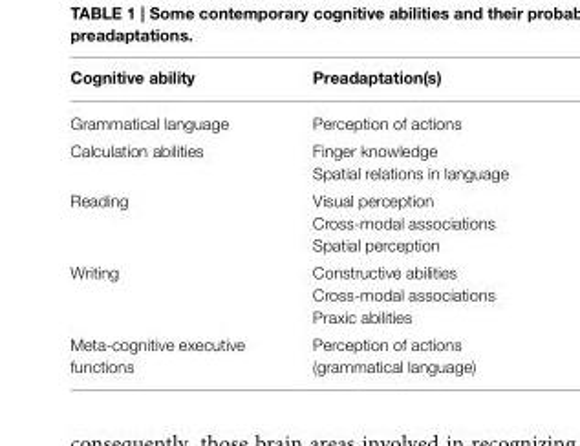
<table><thead><tr><td>Cognitive ability</td><td>Preadaptation(s)</td></tr></thead><tbody><tr><td>Grammatical language</td><td>Perception of actions</td></tr><tr><td>Calculation abilities</td><td>Finger knowledge Spatial relations in language</td></tr><tr><td>Reading</td><td>Visual perception Cross-modal associations Spatial perception</td></tr><tr><td>Writing</td><td>Constructive abilities Cross-modal associations Praxic abilities</td></tr><tr><td>Meta-cognitive executive functions</td><td>Perception of actions (grammatical language)</td></tr></tbody></table>